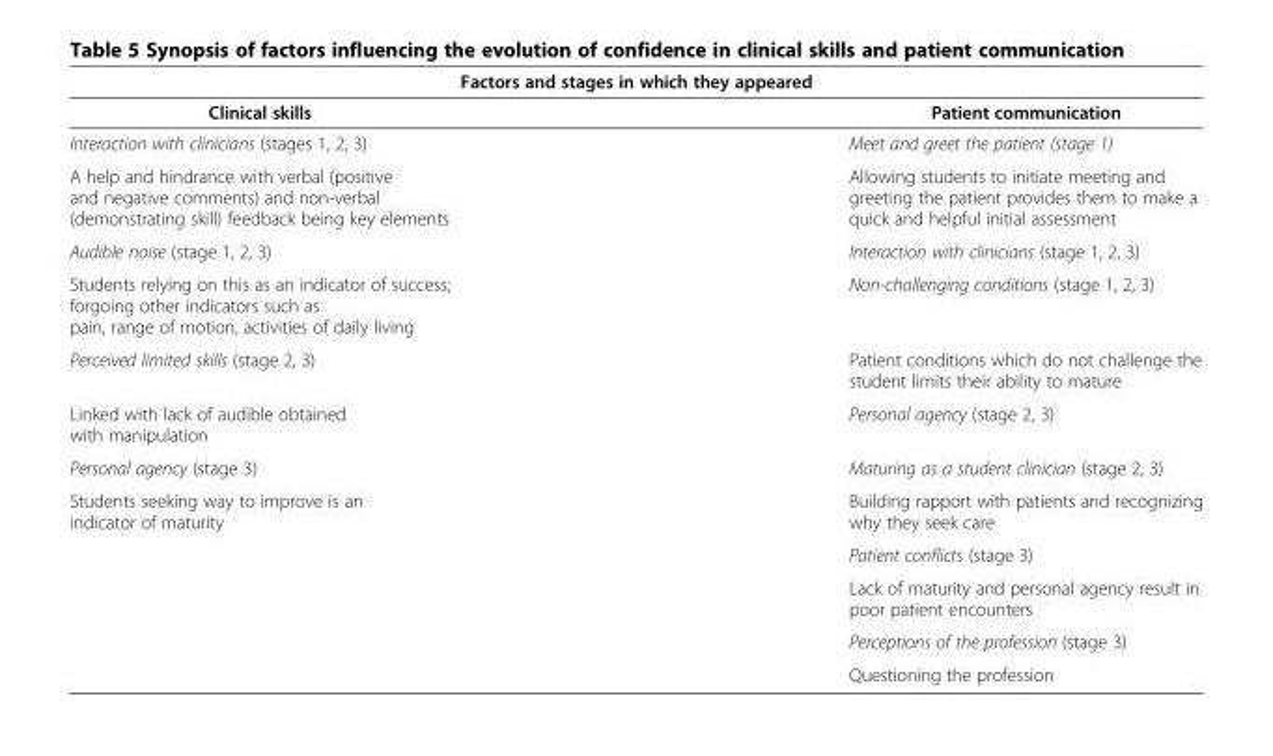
<table><thead><tr><td colspan="2">Factors and stages in which they appeared</td></tr><tr><td>Clinical skills</td><td>Patient communication</td></tr></thead><tbody><tr><td>Interaction with clinicians (stages 1, 2, 3)</td><td>Meet and greet the patient (stage 1)</td></tr><tr><td>A help and hindrance with verbal (positive and negative comments) and non-verbal (demonstrating skill) feedback being key elements</td><td>Allowing students to initiate meeting and greeting the patient provides them to make a quick and helpful initial assessment</td></tr><tr><td>Audible noise (stage 1, 2, 3)</td><td>Interaction with clinicians (stage 1, 2, 3)</td></tr><tr><td>Students relying on this as an indicator of success; forgoing other indicators such as pain, range of motion, activities of daily living</td><td>Non-challenging conditions (stage 1, 2, 3)</td></tr><tr><td>Perceived limited skills (stage 2, 3)</td><td>Patient conditions which do not challenge the student limits their ability to mature</td></tr><tr><td>Linked with lack of audible obtained with manipulation</td><td>Personal agency (stage 2, 3)</td></tr><tr><td>Personal agency (stage 3)</td><td>Maturing as a student clinician (stage 2, 3)</td></tr><tr><td rowspan="5">Students seeking way to improve is an indicator of maturity</td><td>Building rapport with patients and recognizing why they seek care</td></tr><tr><td>Patient conflicts (stage 3)</td></tr><tr><td>Lack of maturity and personal agency result in poor patient encounters</td></tr><tr><td>Perceptions of the profession (stage 3)</td></tr><tr><td>Questioning the profession</td></tr></tbody></table>